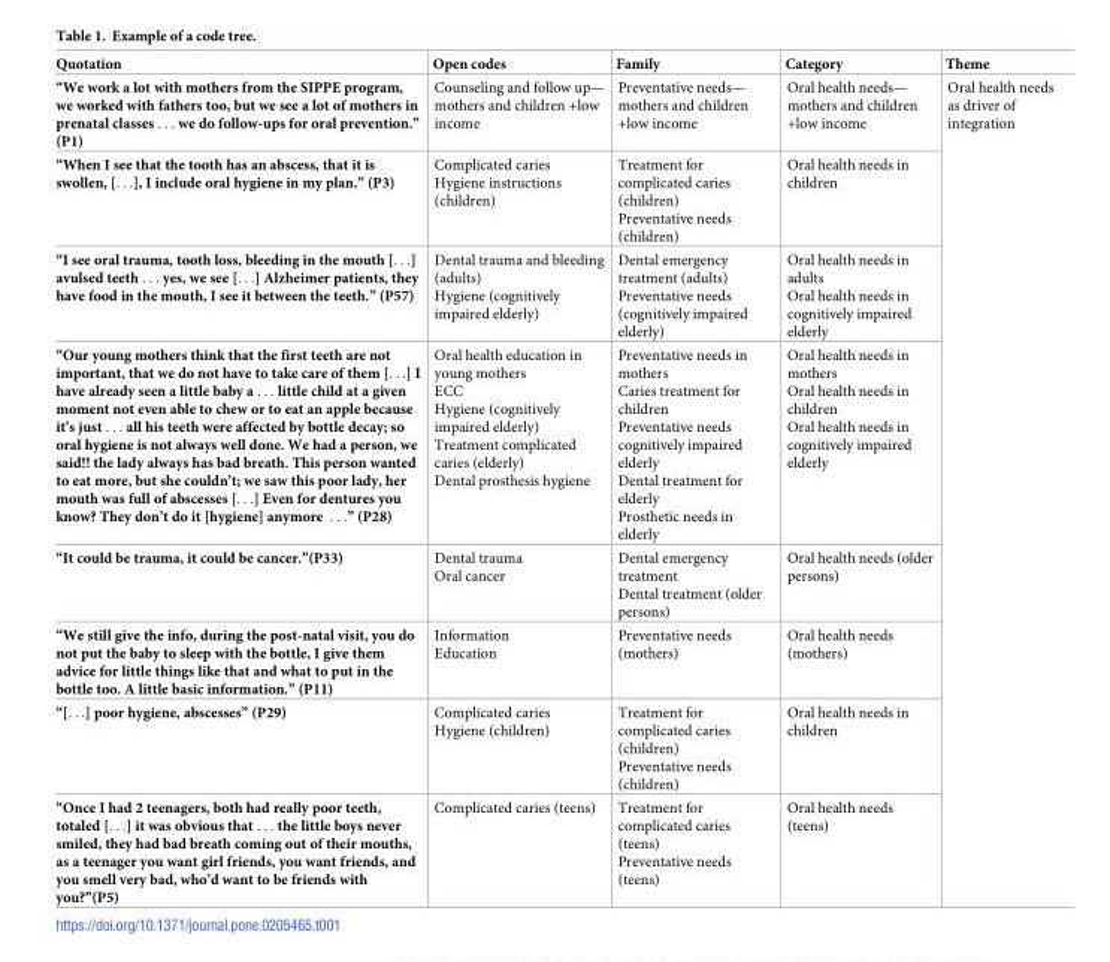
<table><thead><tr><td>Quotation</td><td>Open codes</td><td>Family</td><td>Category</td><td>Theme</td></tr></thead><tbody><tr><td>“We work a lot with mothers from the SIPPE program, we worked with fathers too, but we see a lot of mothers in prenatal classes . . . we do follow-ups for oral prevention.” (P1)</td><td>Counseling and follow up— mothers and children +low income</td><td>Preventative needs— mothers and children +low income</td><td>Oral health needs— mothers and children +low income</td><td rowspan="8">Oral health needs as driver of integration</td></tr><tr><td>“When I see that the tooth has an abscess, that it is swollen, [. . .], I include oral hygiene in my plan.” (P3)</td><td>Complicated caries Hygiene instructions (children)</td><td>Treatment for complicated caries (children) Preventative needs (children)</td><td>Oral health needs in children</td></tr><tr><td>“I see oral trauma, tooth loss, bleeding in the mouth [. . .] avulsed teeth . . . yes, we see [. . .] Alzheimer patients, they have food in the mouth, I see it between the teeth.” (P57)</td><td>Dental trauma and bleeding (adults) Hygiene (cognitively impaired elderly)</td><td>Dental emergency treatment (adults) Preventative needs (cognitively impaired elderly)</td><td>Oral health needs in adults Oral health needs in cognitively impaired elderly</td></tr><tr><td>“Our young mothers think that the first teeth are not important, that we do not have to take care of them [. . .] I have already seen a little baby a . . . little child at a given moment not even able to chew or to eat an apple because it’s just . . . all his teeth were affected by bottle decay; so oral hygiene is not always well done. We had a person, we said!! the lady always has bad breath. This person wanted to eat more, but she couldn’t; we saw this poor lady, her mouth was full of abscesses [. . .] Even for dentures you know? They don’t do it [hygiene] anymore . . .” (P28)</td><td>Oral health education in young mothers ECC Hygiene (cognitively impaired elderly) Treatment complicated caries (elderly) Dental prosthesis hygiene</td><td>Preventative needs in mothers Caries treatment for children Preventative needs cognitively impaired elderly Dental treatment for elderly Prosthetic needs in elderly</td><td>Oral health needs in mothers Oral health needs in children Oral health needs in cognitively impaired elderly</td></tr><tr><td>“It could be trauma, it could be cancer.”(P33)</td><td>Dental trauma Oral cancer</td><td>Dental emergency treatment Dental treatment (older persons)</td><td>Oral health needs (older persons)</td></tr><tr><td>“We still give the info, during the post-natal visit, you do not put the baby to sleep with the bottle, I give them advice for little things like that and what to put in the bottle too. A little basic information.” (P11)</td><td>Information Education</td><td>Preventative needs (mothers)</td><td>Oral health needs (mothers)</td></tr><tr><td>“[. . .] poor hygiene, abscesses” (P29)</td><td>Complicated caries Hygiene (children)</td><td>Treatment for complicated caries (children) Preventative needs (children)</td><td>Oral health needs in children</td></tr><tr><td>“Once I had 2 teenagers, both had really poor teeth, totaled [. . .] it was obvious that . . . the little boys never smiled, they had bad breath coming out of their mouths, as a teenager you want girl friends, you want friends, and you smell very bad, who’d want to be friends with you?”(P5)</td><td>Complicated caries (teens)</td><td>Treatment for complicated caries (teens) Preventative needs (teens)</td><td>Oral health needs (teens)</td></tr></tbody></table>